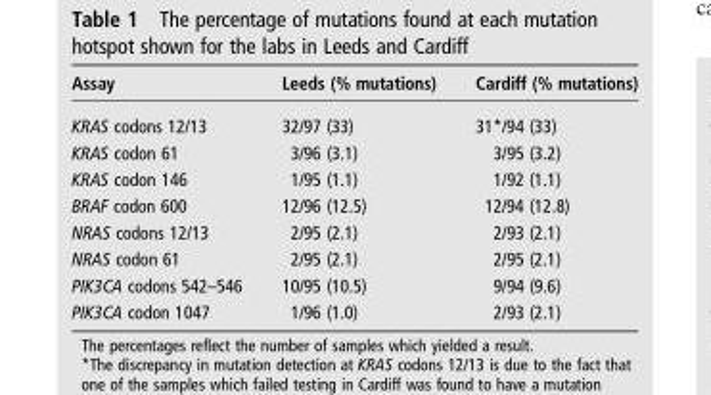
<table><thead><tr><td>Assay</td><td>Leeds (% mutations)</td><td>Cardiff (% mutations)</td></tr></thead><tbody><tr><td>KRAS codons 12/13</td><td>32/97 (33)</td><td>31*/94 (33)</td></tr><tr><td>KRAS codon 61</td><td>3/96 (3.1)</td><td>3/95 (3.2)</td></tr><tr><td>KRAS codon 146</td><td>1/95 (1.1)</td><td>1/92 (1.1)</td></tr><tr><td>BRAF codon 600</td><td>12/96 (12.5)</td><td>12/94 (12.8)</td></tr><tr><td>NRAS codons 12/13</td><td>2/95 (2.1)</td><td>2/93 (2.1)</td></tr><tr><td>NRAS codon 61</td><td>2/95 (2.1)</td><td>2/95 (2.1)</td></tr><tr><td>PIK3CA codons 542–546</td><td>10/95 (10.5)</td><td>9/94 (9.6)</td></tr><tr><td>PIK3CA codon 1047</td><td>1/96 (1.0)</td><td>2/93 (2.1)</td></tr></tbody></table>